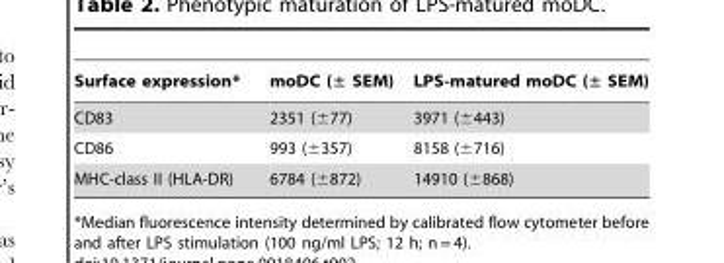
<table><thead><tr><td>Surface expression*</td><td>moDC (± SEM)</td><td>LPS-matured moDC (± SEM)</td></tr></thead><tbody><tr><td>CD83</td><td>2351 (±77)</td><td>3971 (±443)</td></tr><tr><td>CD86</td><td>993 (±357)</td><td>8158 (±716)</td></tr><tr><td>MHC-class II (HLA-DR)</td><td>6784 (±872)</td><td>14910 (±868)</td></tr></tbody></table>